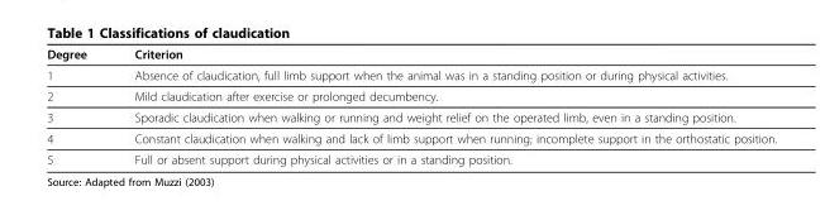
<table><thead><tr><td>Degree</td><td>Criterion</td></tr></thead><tbody><tr><td>1</td><td>Absence of claudication, full limb support when the animal was in a standing position or during physical activities.</td></tr><tr><td>2</td><td>Mild claudication after exercise or prolonged decumbency.</td></tr><tr><td>3</td><td>Sporadic claudication when walking or running and weight relief on the operated limb, even in a standing position.</td></tr><tr><td>4</td><td>Constant claudication when walking and lack of limb support when running; incomplete support in the orthostatic position.</td></tr><tr><td>5</td><td>Full or absent support during physical activities or in a standing position.</td></tr></tbody></table>